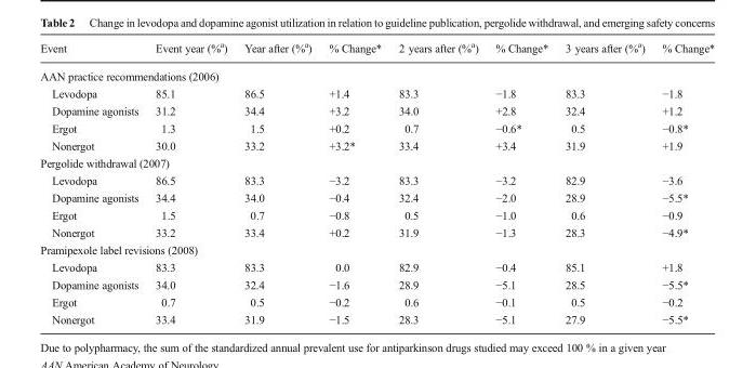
<table><thead><tr><td>Event</td><td>Event year (%<sup>a</sup>)</td><td>Year after (%<sup>a</sup>)</td><td>% Change*</td><td>2 years after (%<sup>a</sup>)</td><td>% Change*</td><td>3 years after (%<sup>a</sup>)</td><td>% Change*</td></tr></thead><tbody><tr><td colspan="8">AAN practice recommendations (2006)</td></tr><tr><td>Levodopa</td><td>85.1</td><td>86.5</td><td>+1.4</td><td>83.3</td><td>−1.8</td><td>83.3</td><td>−1.8</td></tr><tr><td>Dopamine agonists</td><td>31.2</td><td>34.4</td><td>+3.2</td><td>34.0</td><td>+2.8</td><td>32.4</td><td>+1.2</td></tr><tr><td>Ergot</td><td>1.3</td><td>1.5</td><td>+0.2</td><td>0.7</td><td>−0.6*</td><td>0.5</td><td>−0.8*</td></tr><tr><td>Nonergot</td><td>30.0</td><td>33.2</td><td>+3.2*</td><td>33.4</td><td>+3.4</td><td>31.9</td><td>+1.9</td></tr><tr><td colspan="8">Pergolide withdrawal (2007)</td></tr><tr><td>Levodopa</td><td>86.5</td><td>83.3</td><td>−3.2</td><td>83.3</td><td>−3.2</td><td>82.9</td><td>−3.6</td></tr><tr><td>Dopamine agonists</td><td>34.4</td><td>34.0</td><td>−0.4</td><td>32.4</td><td>−2.0</td><td>28.9</td><td>−5.5*</td></tr><tr><td>Ergot</td><td>1.5</td><td>0.7</td><td>−0.8</td><td>0.5</td><td>−1.0</td><td>0.6</td><td>−0.9</td></tr><tr><td>Nonergot</td><td>33.2</td><td>33.4</td><td>+0.2</td><td>31.9</td><td>−1.3</td><td>28.3</td><td>−4.9*</td></tr><tr><td colspan="8">Pramipexole label revisions (2008)</td></tr><tr><td>Levodopa</td><td>83.3</td><td>83.3</td><td>0.0</td><td>82.9</td><td>−0.4</td><td>85.1</td><td>+1.8</td></tr><tr><td>Dopamine agonists</td><td>34.0</td><td>32.4</td><td>−1.6</td><td>28.9</td><td>−5.1</td><td>28.5</td><td>−5.5*</td></tr><tr><td>Ergot</td><td>0.7</td><td>0.5</td><td>−0.2</td><td>0.6</td><td>−0.1</td><td>0.5</td><td>−0.2</td></tr><tr><td>Nonergot</td><td>33.4</td><td>31.9</td><td>−1.5</td><td>28.3</td><td>−5.1</td><td>27.9</td><td>−5.5*</td></tr></tbody></table>